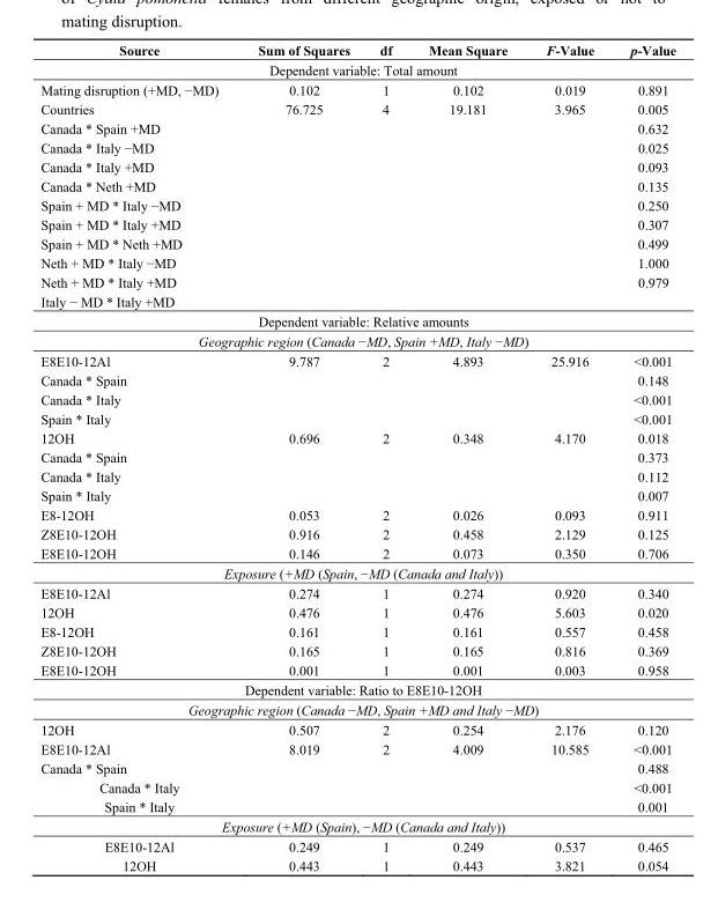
<table><thead><tr><td>Source</td><td>Sum of Squares</td><td>df</td><td>Mean Square</td><td>F-Value</td><td>p-Value</td></tr></thead><tbody><tr><td colspan="6">Dependent variable: Total amount</td></tr><tr><td>Mating disruption (+MD, −MD)</td><td>0.102</td><td>1</td><td>0.102</td><td>0.019</td><td>0.891</td></tr><tr><td>Countries</td><td>76.725</td><td>4</td><td>19.181</td><td>3.965</td><td>0.005</td></tr><tr><td>Canada * Spain +MD</td><td></td><td></td><td></td><td></td><td>0.632</td></tr><tr><td>Canada * Italy −MD</td><td></td><td></td><td></td><td></td><td>0.025</td></tr><tr><td>Canada * Italy +MD</td><td></td><td></td><td></td><td></td><td>0.093</td></tr><tr><td>Canada * Neth +MD</td><td></td><td></td><td></td><td></td><td>0.135</td></tr><tr><td>Spain + MD * Italy −MD</td><td></td><td></td><td></td><td></td><td>0.250</td></tr><tr><td>Spain + MD * Italy +MD</td><td></td><td></td><td></td><td></td><td>0.307</td></tr><tr><td>Spain + MD * Neth +MD</td><td></td><td></td><td></td><td></td><td>0.499</td></tr><tr><td>Neth + MD * Italy −MD</td><td></td><td></td><td></td><td></td><td>1.000</td></tr><tr><td>Neth + MD * Italy +MD</td><td></td><td></td><td></td><td></td><td>0.979</td></tr><tr><td colspan="6">Italy − MD * Italy +MD</td></tr><tr><td colspan="6">Dependent variable: Relative amounts</td></tr><tr><td colspan="6">Geographic region (Canada −MD, Spain +MD, Italy −MD)</td></tr><tr><td>E8E10-12Al</td><td>9.787</td><td>2</td><td>4.893</td><td>25.916</td><td>&lt;0.001</td></tr><tr><td>Canada * Spain</td><td></td><td></td><td></td><td></td><td>0.148</td></tr><tr><td>Canada * Italy</td><td></td><td></td><td></td><td></td><td>&lt;0.001</td></tr><tr><td>Spain * Italy</td><td></td><td></td><td></td><td></td><td>&lt;0.001</td></tr><tr><td>12OH</td><td>0.696</td><td>2</td><td>0.348</td><td>4.170</td><td>0.018</td></tr><tr><td>Canada * Spain</td><td></td><td></td><td></td><td></td><td>0.373</td></tr><tr><td>Canada * Italy</td><td></td><td></td><td></td><td></td><td>0.112</td></tr><tr><td>Spain * Italy</td><td></td><td></td><td></td><td></td><td>0.007</td></tr><tr><td>E8-12OH</td><td>0.053</td><td>2</td><td>0.026</td><td>0.093</td><td>0.911</td></tr><tr><td>Z8E10-12OH</td><td>0.916</td><td>2</td><td>0.458</td><td>2.129</td><td>0.125</td></tr><tr><td>E8E10-12OH</td><td>0.146</td><td>2</td><td>0.073</td><td>0.350</td><td>0.706</td></tr><tr><td colspan="6">Exposure (+MD (Spain, −MD (Canada and Italy))</td></tr><tr><td>E8E10-12Al</td><td>0.274</td><td>1</td><td>0.274</td><td>0.920</td><td>0.340</td></tr><tr><td>12OH</td><td>0.476</td><td>1</td><td>0.476</td><td>5.603</td><td>0.020</td></tr><tr><td>E8-12OH</td><td>0.161</td><td>1</td><td>0.161</td><td>0.557</td><td>0.458</td></tr><tr><td>Z8E10-12OH</td><td>0.165</td><td>1</td><td>0.165</td><td>0.816</td><td>0.369</td></tr><tr><td>E8E10-12OH</td><td>0.001</td><td>1</td><td>0.001</td><td>0.003</td><td>0.958</td></tr><tr><td colspan="6">Dependent variable: Ratio to E8E10-12OH</td></tr><tr><td colspan="6">Geographic region (Canada −MD, Spain +MD and Italy −MD)</td></tr><tr><td>12OH</td><td>0.507</td><td>2</td><td>0.254</td><td>2.176</td><td>0.120</td></tr><tr><td>E8E10-12Al</td><td>8.019</td><td>2</td><td>4.009</td><td>10.585</td><td>&lt;0.001</td></tr><tr><td>Canada * Spain</td><td></td><td></td><td></td><td></td><td>0.488</td></tr><tr><td>Canada * Italy</td><td></td><td></td><td></td><td></td><td>&lt;0.001</td></tr><tr><td>Spain * Italy</td><td></td><td></td><td></td><td></td><td>0.001</td></tr><tr><td colspan="6">Exposure (+MD (Spain), −MD (Canada and Italy))</td></tr><tr><td>E8E10-12Al</td><td>0.249</td><td>1</td><td>0.249</td><td>0.537</td><td>0.465</td></tr><tr><td>12OH</td><td>0.443</td><td>1</td><td>0.443</td><td>3.821</td><td>0.054</td></tr></tbody></table>